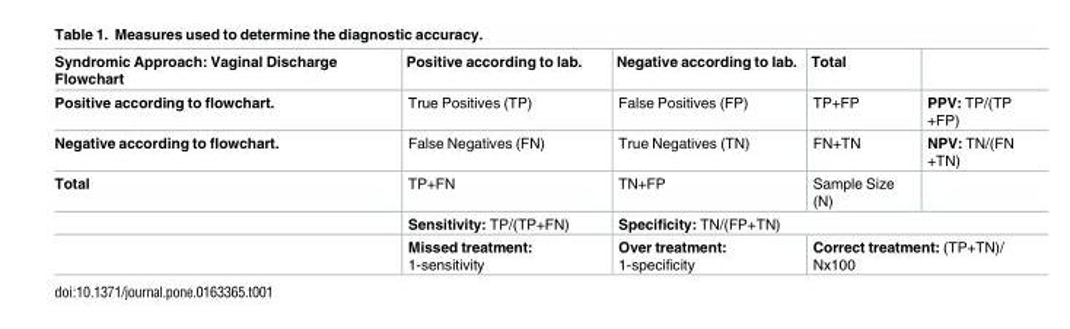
<table><thead><tr><td>Syndromic Approach: Vaginal Discharge Flowchart</td><td>Positive according to lab.</td><td>Negative according to lab.</td><td>Total</td><td></td></tr></thead><tbody><tr><td>Positive according to flowchart.</td><td>True Positives (TP)</td><td>False Positives (FP)</td><td>TP+FP</td><td>PPV: TP/(TP +FP)</td></tr><tr><td>Negative according to flowchart.</td><td>False Negatives (FN)</td><td>True Negatives (TN)</td><td>FN+TN</td><td>NPV: TN/(FN +TN)</td></tr><tr><td rowspan="3">Total</td><td>TP+FN</td><td>TN+FP</td><td>Sample Size (N)</td><td></td></tr><tr><td>Sensitivity: TP/(TP+FN)</td><td colspan="3">Specificity: TN/(FP+TN)</td></tr><tr><td>Missed treatment: 1-sensitivity</td><td>Over treatment: 1-specificity</td><td colspan="2">Correct treatment: (TP+TN)/ Nx100</td></tr></tbody></table>